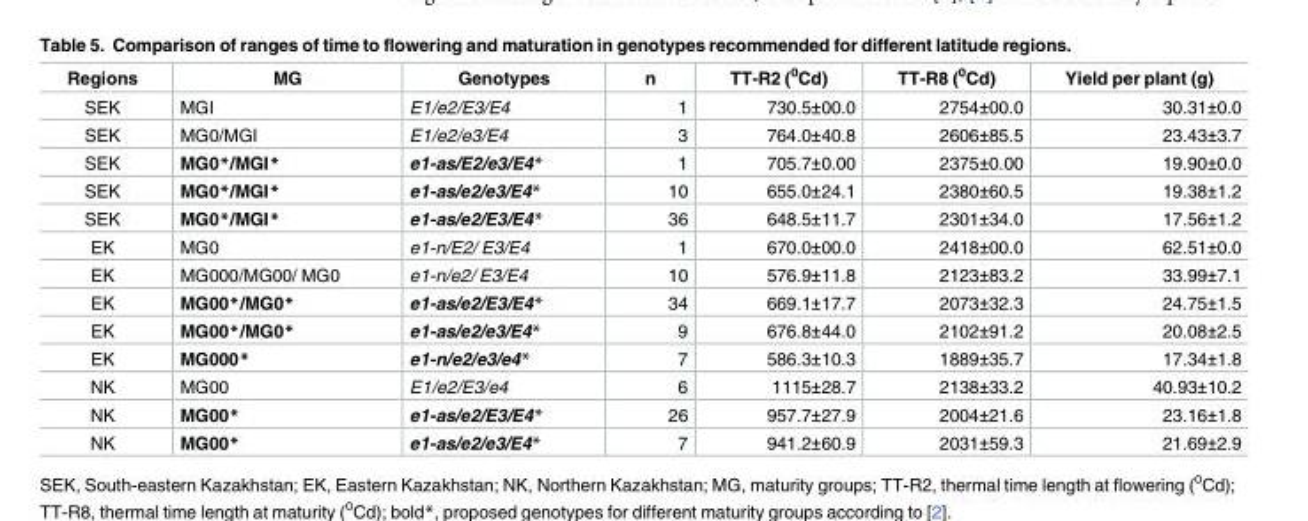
<table><thead><tr><td>Regions</td><td>MG</td><td>Genotypes</td><td>n</td><td>TT-R2 (<sup>0</sup>Cd)</td><td>TT-R8 (<sup>0</sup>Cd)</td><td>Yield per plant (g)</td></tr></thead><tbody><tr><td>SEK</td><td>MGI</td><td>E1/e2/E3/E4</td><td>1</td><td>730.5±00.0</td><td>2754±00.0</td><td>30.31±0.0</td></tr><tr><td>SEK</td><td>MG0/MGI</td><td>E1/e2/e3/E4</td><td>3</td><td>764.0±40.8</td><td>2606±85.5</td><td>23.43±3.7</td></tr><tr><td>SEK</td><td>MG0*/MGI*</td><td>e1-as/E2/e3/E4*</td><td>1</td><td>705.7±0.00</td><td>2375±0.00</td><td>19.90±0.0</td></tr><tr><td>SEK</td><td>MG0*/MGI*</td><td>e1-as/e2/e3/E4*</td><td>10</td><td>655.0±24.1</td><td>2380±60.5</td><td>19.38±1.2</td></tr><tr><td>SEK</td><td>MG0*/MGI*</td><td>e1-as/e2/E3/E4*</td><td>36</td><td>648.5±11.7</td><td>2301±34.0</td><td>17.56±1.2</td></tr><tr><td>EK</td><td>MG0</td><td>e1-n/E2/ E3/E4</td><td>1</td><td>670.0±00.0</td><td>2418±00.0</td><td>62.51±0.0</td></tr><tr><td>EK</td><td>MG000/MG00/ MG0</td><td>e1-n/e2/ E3/E4</td><td>10</td><td>576.9±11.8</td><td>2123±83.2</td><td>33.99±7.1</td></tr><tr><td>EK</td><td>MG00*/MG0*</td><td>e1-as/e2/E3/E4*</td><td>34</td><td>669.1±17.7</td><td>2073±32.3</td><td>24.75±1.5</td></tr><tr><td>EK</td><td>MG00*/MG0*</td><td>e1-as/e2/e3/E4*</td><td>9</td><td>676.8±44.0</td><td>2102±91.2</td><td>20.08±2.5</td></tr><tr><td>EK</td><td>MG000*</td><td>e1-n/e2/e3/e4*</td><td>7</td><td>586.3±10.3</td><td>1889±35.7</td><td>17.34±1.8</td></tr><tr><td>NK</td><td>MG00</td><td>E1/e2/E3/e4</td><td>6</td><td>1115±28.7</td><td>2138±33.2</td><td>40.93±10.2</td></tr><tr><td>NK</td><td>MG00*</td><td>e1-as/e2/E3/E4*</td><td>26</td><td>957.7±27.9</td><td>2004±21.6</td><td>23.16±1.8</td></tr><tr><td>NK</td><td>MG00*</td><td>e1-as/e2/e3/E4*</td><td>7</td><td>941.2±60.9</td><td>2031±59.3</td><td>21.69±2.9</td></tr></tbody></table>